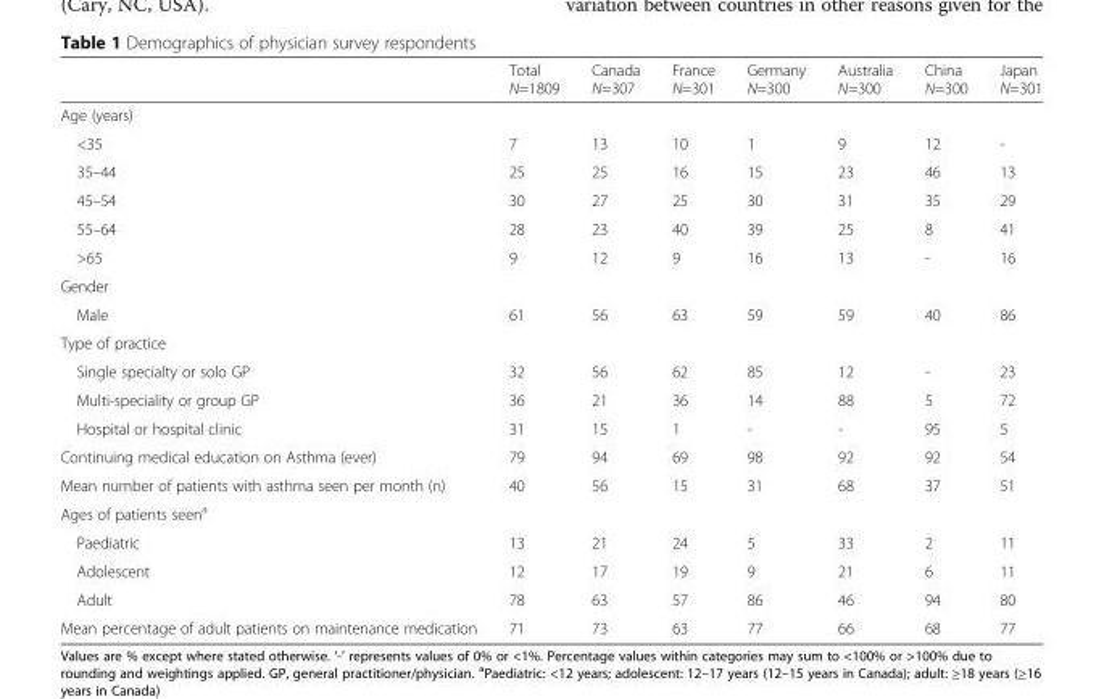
<table><thead><tr><td></td><td>Total N=1809</td><td>Canada N=307</td><td>France N=301</td><td>Germany N=300</td><td>Australia N=300</td><td>China N=300</td><td>Japan N=301</td></tr></thead><tbody><tr><td colspan="8">Age (years)</td></tr><tr><td>&lt;35</td><td>7</td><td>13</td><td>10</td><td>1</td><td>9</td><td>12</td><td>-</td></tr><tr><td>35–44</td><td>25</td><td>25</td><td>16</td><td>15</td><td>23</td><td>46</td><td>13</td></tr><tr><td>45–54</td><td>30</td><td>27</td><td>25</td><td>30</td><td>31</td><td>35</td><td>29</td></tr><tr><td>55–64</td><td>28</td><td>23</td><td>40</td><td>39</td><td>25</td><td>8</td><td>41</td></tr><tr><td>&gt;65</td><td>9</td><td>12</td><td>9</td><td>16</td><td>13</td><td>-</td><td>16</td></tr><tr><td colspan="8">Gender</td></tr><tr><td>Male</td><td>61</td><td>56</td><td>63</td><td>59</td><td>59</td><td>40</td><td>86</td></tr><tr><td colspan="8">Type of practice</td></tr><tr><td>Single specialty or solo GP</td><td>32</td><td>56</td><td>62</td><td>85</td><td>12</td><td>-</td><td>23</td></tr><tr><td>Multi-speciality or group GP</td><td>36</td><td>21</td><td>36</td><td>14</td><td>88</td><td>5</td><td>72</td></tr><tr><td>Hospital or hospital clinic</td><td>31</td><td>15</td><td>1</td><td>-</td><td>-</td><td>95</td><td>5</td></tr><tr><td>Continuing medical education on Asthma (ever)</td><td>79</td><td>94</td><td>69</td><td>98</td><td>92</td><td>92</td><td>54</td></tr><tr><td>Mean number of patients with asthma seen per month (n)</td><td>40</td><td>56</td><td>15</td><td>31</td><td>68</td><td>37</td><td>51</td></tr><tr><td colspan="8">Ages of patients seen<sup>a</sup></td></tr><tr><td>Paediatric</td><td>13</td><td>21</td><td>24</td><td>5</td><td>33</td><td>2</td><td>11</td></tr><tr><td>Adolescent</td><td>12</td><td>17</td><td>19</td><td>9</td><td>21</td><td>6</td><td>11</td></tr><tr><td>Adult</td><td>78</td><td>63</td><td>57</td><td>86</td><td>46</td><td>94</td><td>80</td></tr><tr><td>Mean percentage of adult patients on maintenance medication</td><td>71</td><td>73</td><td>63</td><td>77</td><td>66</td><td>68</td><td>77</td></tr></tbody></table>